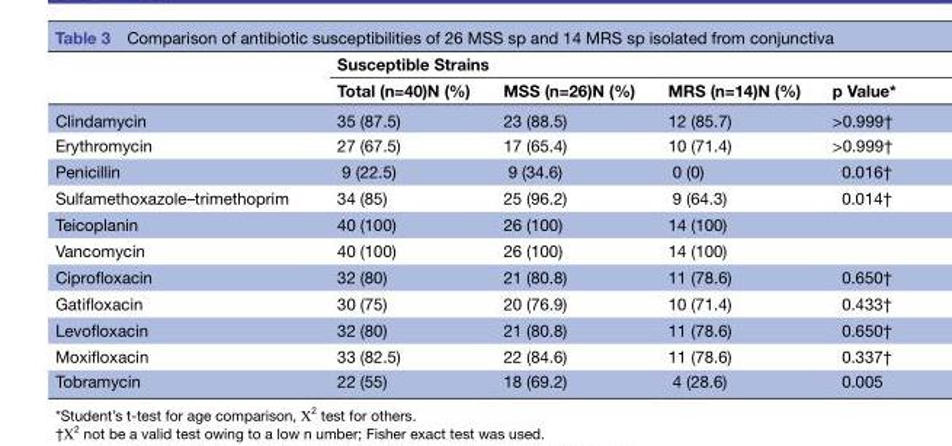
<table><thead><tr><td rowspan="2"></td><td colspan="4">Susceptible Strains</td></tr><tr><td>Total (n=40)N (%)</td><td>MSS (n=26)N (%)</td><td>MRS (n=14)N (%)</td><td>p Value*</td></tr></thead><tbody><tr><td>Clindamycin</td><td>35 (87.5)</td><td>23 (88.5)</td><td>12 (85.7)</td><td>&gt;0.999†</td></tr><tr><td>Erythromycin</td><td>27 (67.5)</td><td>17 (65.4)</td><td>10 (71.4)</td><td>&gt;0.999†</td></tr><tr><td>Penicillin</td><td>9 (22.5)</td><td>9 (34.6)</td><td>0 (0)</td><td>0.016†</td></tr><tr><td>Sulfamethoxazole–trimethoprim</td><td>34 (85)</td><td>25 (96.2)</td><td>9 (64.3)</td><td>0.014†</td></tr><tr><td>Teicoplanin</td><td>40 (100)</td><td>26 (100)</td><td>14 (100)</td><td></td></tr><tr><td>Vancomycin</td><td>40 (100)</td><td>26 (100)</td><td>14 (100)</td><td></td></tr><tr><td>Ciprofloxacin</td><td>32 (80)</td><td>21 (80.8)</td><td>11 (78.6)</td><td>0.650†</td></tr><tr><td>Gatifloxacin</td><td>30 (75)</td><td>20 (76.9)</td><td>10 (71.4)</td><td>0.433†</td></tr><tr><td>Levofloxacin</td><td>32 (80)</td><td>21 (80.8)</td><td>11 (78.6)</td><td>0.650†</td></tr><tr><td>Moxifloxacin</td><td>33 (82.5)</td><td>22 (84.6)</td><td>11 (78.6)</td><td>0.337†</td></tr><tr><td>Tobramycin</td><td>22 (55)</td><td>18 (69.2)</td><td>4 (28.6)</td><td>0.005</td></tr></tbody></table>